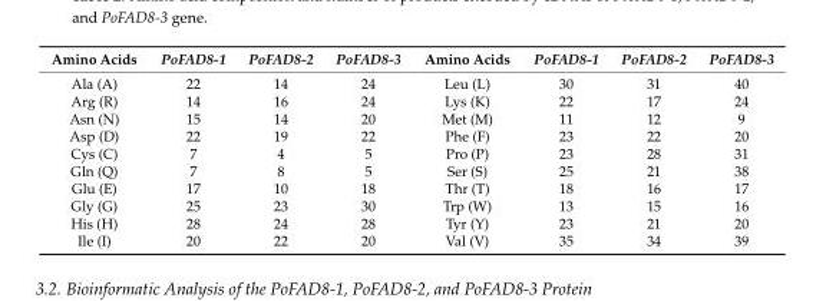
<table><thead><tr><td>Amino Acids</td><td>PoFAD8-1</td><td>PoFAD8-2</td><td>PoFAD8-3</td><td>Amino Acids</td><td>PoFAD8-1</td><td>PoFAD8-2</td><td>PoFAD8-3</td></tr></thead><tbody><tr><td>Ala (A)</td><td>22</td><td>14</td><td>24</td><td>Leu (L)</td><td>30</td><td>31</td><td>40</td></tr><tr><td>Arg (R)</td><td>14</td><td>16</td><td>24</td><td>Lys (K)</td><td>22</td><td>17</td><td>24</td></tr><tr><td>Asn (N)</td><td>15</td><td>14</td><td>20</td><td>Met (M)</td><td>11</td><td>12</td><td>9</td></tr><tr><td>Asp (D)</td><td>22</td><td>19</td><td>22</td><td>Phe (F)</td><td>23</td><td>22</td><td>20</td></tr><tr><td>Cys (C)</td><td>7</td><td>4</td><td>5</td><td>Pro (P)</td><td>23</td><td>28</td><td>31</td></tr><tr><td>Gln (Q)</td><td>7</td><td>8</td><td>5</td><td>Ser (S)</td><td>25</td><td>21</td><td>38</td></tr><tr><td>Glu (E)</td><td>17</td><td>10</td><td>18</td><td>Thr (T)</td><td>18</td><td>16</td><td>17</td></tr><tr><td>Gly (G)</td><td>25</td><td>23</td><td>30</td><td>Trp (W)</td><td>13</td><td>15</td><td>16</td></tr><tr><td>His (H)</td><td>28</td><td>24</td><td>28</td><td>Tyr (Y)</td><td>23</td><td>21</td><td>20</td></tr><tr><td>Ile (I)</td><td>20</td><td>22</td><td>20</td><td>Val (V)</td><td>35</td><td>34</td><td>39</td></tr></tbody></table>